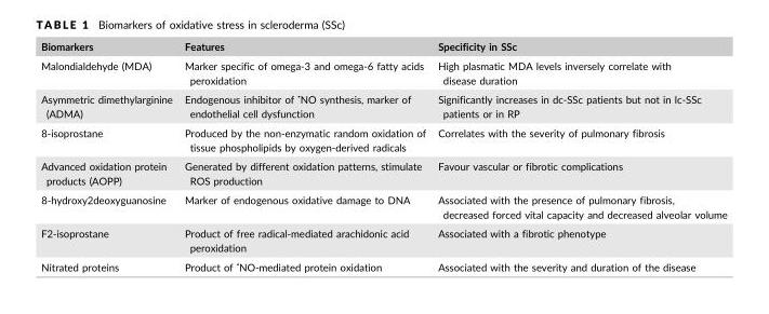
<table><thead><tr><td>Biomarkers</td><td>Features</td><td>Specificity in SSc</td></tr></thead><tbody><tr><td>Malondialdehyde (MDA)</td><td>Marker specific of omega-3 and omega-6 fatty acids peroxidation</td><td>High plasmatic MDA levels inversely correlate with disease duration</td></tr><tr><td>Asymmetric dimethylarginine (ADMA)</td><td>Endogenous inhibitor of <sup>•</sup>NO synthesis, marker of endothelial cell dysfunction</td><td>Significantly increases in dc-SSc patients but not in lc-SSc patients or in RP</td></tr><tr><td>8-isoprostane</td><td>Produced by the non-enzymatic random oxidation of tissue phospholipids by oxygen-derived radicals</td><td>Correlates with the severity of pulmonary fibrosis</td></tr><tr><td>Advanced oxidation protein products (AOPP)</td><td>Generated by different oxidation patterns, stimulate ROS production</td><td>Favour vascular or fibrotic complications</td></tr><tr><td>8-hydroxy2deoxyguanosine</td><td>Marker of endogenous oxidative damage to DNA</td><td>Associated with the presence of pulmonary fibrosis, decreased forced vital capacity and decreased alveolar volume</td></tr><tr><td>F2-isoprostane</td><td>Product of free radical-mediated arachidonic acid peroxidation</td><td>Associated with a fibrotic phenotype</td></tr><tr><td>Nitrated proteins</td><td>Product of <sup>•</sup>NO-mediated protein oxidation</td><td>Associated with the severity and duration of the disease</td></tr></tbody></table>